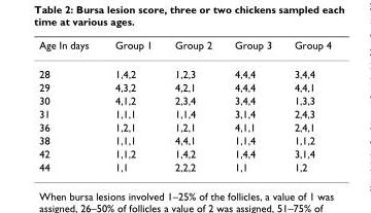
<table><thead><tr><td>Age In days</td><td>Group 1</td><td>Group 2</td><td>Group 3</td><td>Group 4</td></tr></thead><tbody><tr><td>28</td><td>1,4,2</td><td>1,2,3</td><td>4,4,4</td><td>3,4,4</td></tr><tr><td>29</td><td>4,3,2</td><td>4,2,1</td><td>4,4,4</td><td>4,4,1</td></tr><tr><td>30</td><td>4,1,2</td><td>2,3,4</td><td>3,4,4</td><td>1,3,3</td></tr><tr><td>31</td><td>1,1,1</td><td>1,1,4</td><td>3,1,4</td><td>2,4,3</td></tr><tr><td>36</td><td>1,2,1</td><td>1,2,1</td><td>4,1,1</td><td>2,4,1</td></tr><tr><td>38</td><td>1,1,1</td><td>4,4,1</td><td>1,1,4</td><td>1,1,2</td></tr><tr><td>42</td><td>1,1,2</td><td>1,4,2</td><td>1,4,4</td><td>3,1,4</td></tr><tr><td>44</td><td>1,1</td><td>2,2,2</td><td>1,1</td><td>1,2</td></tr></tbody></table>